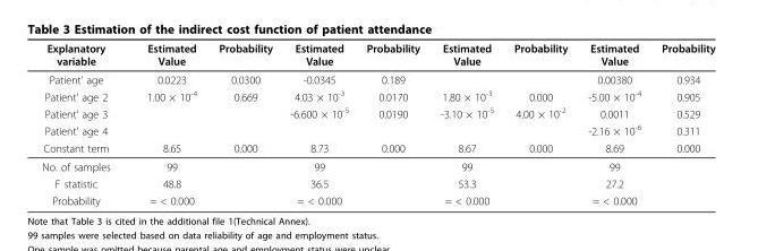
<table><thead><tr><td>Explanatory variable</td><td>Estimated Value</td><td>Probability</td><td>Estimated Value</td><td>Probability</td><td>Estimated Value</td><td>Probability</td><td>Estimated Value</td><td>Probability</td></tr></thead><tbody><tr><td>Patient’ age</td><td>0.0223</td><td>0.0300</td><td>-0.0345</td><td>0.189</td><td></td><td></td><td>0.00380</td><td>0.934</td></tr><tr><td>Patient’ age 2</td><td>1.00 × 10<sup>-4</sup></td><td>0.669</td><td>4.03 × 10<sup>-3</sup></td><td>0.0170</td><td>1.80 × 10<sup>-3</sup></td><td>0.000</td><td>-5.00 × 10<sup>-4</sup></td><td>0.905</td></tr><tr><td>Patient’ age 3</td><td></td><td></td><td>-6.600 × 10<sup>-5</sup></td><td>0.0190</td><td>-3.10 × 10<sup>-5</sup></td><td>4.00 × 10<sup>-2</sup></td><td>0.0011</td><td>0.529</td></tr><tr><td>Patient’ age 4</td><td></td><td></td><td></td><td></td><td></td><td></td><td>-2.16 × 10<sup>-6</sup></td><td>0.311</td></tr><tr><td>Constant term</td><td>8.65</td><td>0.000</td><td>8.73</td><td>0.000</td><td>8.67</td><td>0.000</td><td>8.69</td><td>0.000</td></tr><tr><td>No. of samples</td><td>99</td><td></td><td>99</td><td></td><td>99</td><td></td><td>99</td><td></td></tr><tr><td>F statistic</td><td>48.8</td><td></td><td>36.5</td><td></td><td>53.3</td><td></td><td>27.2</td><td></td></tr><tr><td>Probability</td><td>= &lt; 0.000</td><td></td><td>= &lt; 0.000</td><td></td><td>= &lt; 0.000</td><td></td><td>= &lt; 0.000</td><td></td></tr></tbody></table>